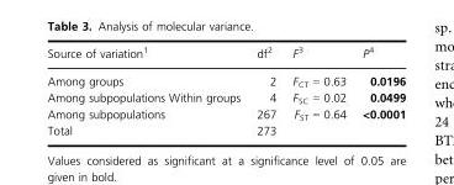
<table><thead><tr><td>Source of variation<sup>1</sup></td><td>df<sup>2</sup></td><td>F<sup>3</sup></td><td>P<sup>4</sup></td></tr></thead><tbody><tr><td>Among groups</td><td>2</td><td>F<sub>CT</sub> = 0.63</td><td>0.0196</td></tr><tr><td>Among subpopulations Within groups</td><td>4</td><td>F<sub>SC</sub> = 0.02</td><td>0.0499</td></tr><tr><td>Among subpopulations</td><td>267</td><td>F<sub>ST</sub> = 0.64</td><td>&lt;0.0001</td></tr><tr><td>Total</td><td>273</td><td></td><td></td></tr></tbody></table>